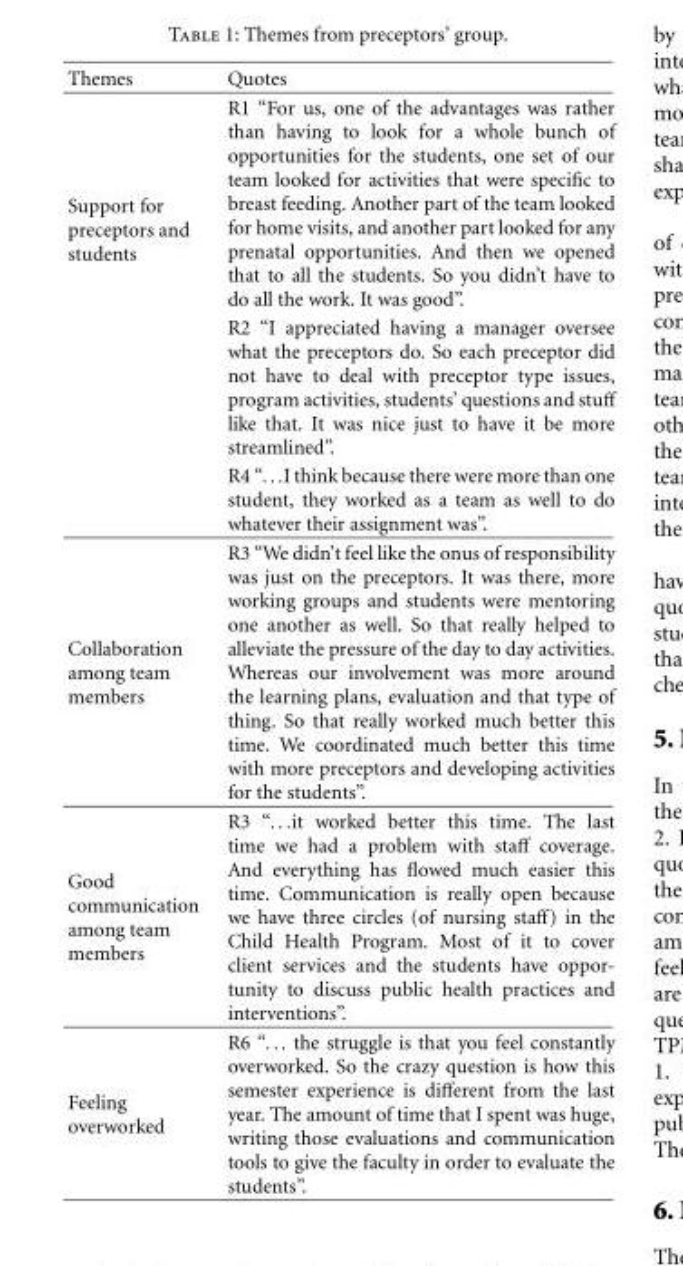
<table><thead><tr><td>Themes</td><td>Quotes</td></tr></thead><tbody><tr><td rowspan="3">Support for preceptors and students</td><td>R1 “For us, one of the advantages was rather than having to look for a whole bunch of opportunities for the students, one set of our team looked for activities that were specific to breast feeding. Another part of the team looked for home visits, and another part looked for any prenatal opportunities. And then we opened that to all the students. So you didn’t have to do all the work. It was good”.</td></tr><tr><td>R2 “I appreciated having a manager oversee what the preceptors do. So each preceptor did not have to deal with preceptor type issues, program activities, students’ questions and stuff like that. It was nice just to have it be more streamlined”.</td></tr><tr><td>R4 “...I think because there were more than one student, they worked as a team as well to do whatever their assignment was”.</td></tr><tr><td>Collaboration among team members</td><td>R3 “We didn’t feel like the onus of responsibility was just on the preceptors. It was there, more working groups and students were mentoring one another as well. So that really helped to alleviate the pressure of the day to day activities. Whereas our involvement was more around the learning plans, evaluation and that type of thing. So that really worked much better this time. We coordinated much better this time with more preceptors and developing activities for the students”.</td></tr><tr><td>Good communication among team members</td><td>R3 “...it worked better this time. The last time we had a problem with staff coverage. And everything has flowed much easier this time. Communication is really open because we have three circles (of nursing staff) in the Child Health Program. Most of it to cover client services and the students have oppor- tunity to discuss public health practices and interventions”.</td></tr><tr><td>Feeling overworked</td><td>R6 “... the struggle is that you feel constantly overworked. So the crazy question is how this semester experience is different from the last year. The amount of time that I spent was huge, writing those evaluations and communication tools to give the faculty in order to evaluate the students”.</td></tr></tbody></table>